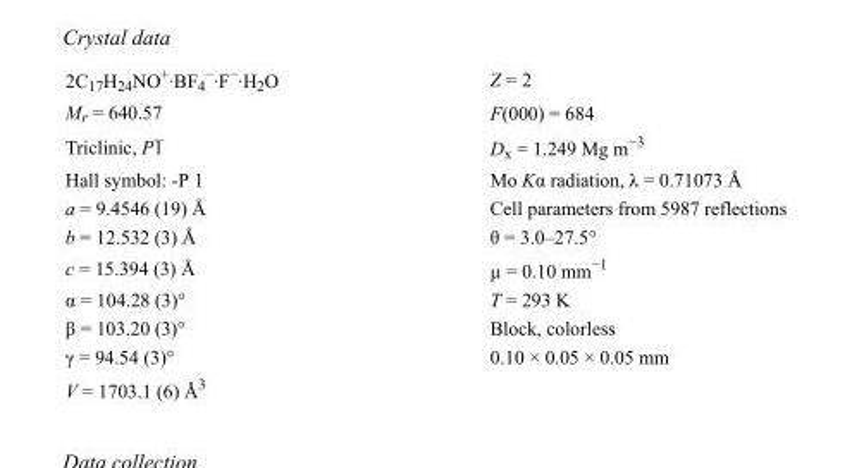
<table><tbody><tr><td>2C<sub>17</sub>H<sub>24</sub>NO<sup>+</sup>·BF<sub>4</sub> <sup>−</sup>·F<sup>−</sup>·H<sub>2</sub>O</td><td>Z = 2</td></tr><tr><td>M<sub>r</sub> = 640.57</td><td>F(000) = 684</td></tr><tr><td>Triclinic, P1</td><td>D<sub>x</sub> = 1.249 Mg m<sup>−3</sup></td></tr><tr><td>Hall symbol: -P 1</td><td>Mo Kα radiation, λ = 0.71073 Å</td></tr><tr><td>a = 9.4546 (19) Å</td><td>Cell parameters from 5987 reflections</td></tr><tr><td>b = 12.532 (3) Å</td><td>θ = 3.0–27.5°</td></tr><tr><td>c = 15.394 (3) Å</td><td>µ = 0.10 mm<sup>−1</sup></td></tr><tr><td>α = 104.28 (3)°</td><td>T = 293 K</td></tr><tr><td>β = 103.20 (3)°</td><td>Block, colorless</td></tr><tr><td>γ = 94.54 (3)°</td><td>0.10 × 0.05 × 0.05 mm</td></tr><tr><td>V = 1703.1 (6) Å<sup>3</sup></td><td></td></tr></tbody></table>